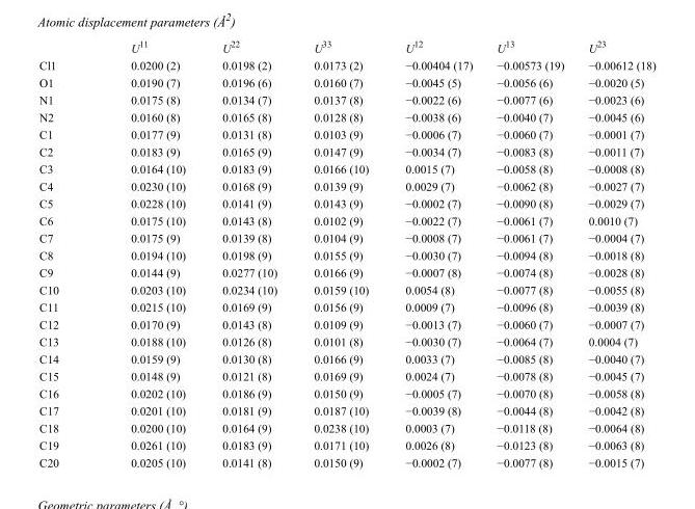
<table><thead><tr><td></td><td>U<sup>11</sup></td><td>U<sup>22</sup></td><td>U<sup>33</sup></td><td>U<sup>12</sup></td><td>U<sup>13</sup></td><td>U<sup>23</sup></td></tr></thead><tbody><tr><td>Cl1</td><td>0.0200 (2)</td><td>0.0198 (2)</td><td>0.0173 (2)</td><td>−0.00404 (17)</td><td>−0.00573 (19)</td><td>−0.00612 (18)</td></tr><tr><td>O1</td><td>0.0190 (7)</td><td>0.0196 (6)</td><td>0.0160 (7)</td><td>−0.0045 (5)</td><td>−0.0056 (6)</td><td>−0.0020 (5)</td></tr><tr><td>N1</td><td>0.0175 (8)</td><td>0.0134 (7)</td><td>0.0137 (8)</td><td>−0.0022 (6)</td><td>−0.0077 (6)</td><td>−0.0023 (6)</td></tr><tr><td>N2</td><td>0.0160 (8)</td><td>0.0165 (8)</td><td>0.0128 (8)</td><td>−0.0038 (6)</td><td>−0.0040 (7)</td><td>−0.0045 (6)</td></tr><tr><td>C1</td><td>0.0177 (9)</td><td>0.0131 (8)</td><td>0.0103 (9)</td><td>−0.0006 (7)</td><td>−0.0060 (7)</td><td>−0.0001 (7)</td></tr><tr><td>C2</td><td>0.0183 (9)</td><td>0.0165 (9)</td><td>0.0147 (9)</td><td>−0.0034 (7)</td><td>−0.0083 (8)</td><td>−0.0011 (7)</td></tr><tr><td>C3</td><td>0.0164 (10)</td><td>0.0183 (9)</td><td>0.0166 (10)</td><td>0.0015 (7)</td><td>−0.0058 (8)</td><td>−0.0008 (8)</td></tr><tr><td>C4</td><td>0.0230 (10)</td><td>0.0168 (9)</td><td>0.0139 (9)</td><td>0.0029 (7)</td><td>−0.0062 (8)</td><td>−0.0027 (7)</td></tr><tr><td>C5</td><td>0.0228 (10)</td><td>0.0141 (9)</td><td>0.0143 (9)</td><td>−0.0002 (7)</td><td>−0.0090 (8)</td><td>−0.0029 (7)</td></tr><tr><td>C6</td><td>0.0175 (10)</td><td>0.0143 (8)</td><td>0.0102 (9)</td><td>−0.0022 (7)</td><td>−0.0061 (7)</td><td>0.0010 (7)</td></tr><tr><td>C7</td><td>0.0175 (9)</td><td>0.0139 (8)</td><td>0.0104 (9)</td><td>−0.0008 (7)</td><td>−0.0061 (7)</td><td>−0.0004 (7)</td></tr><tr><td>C8</td><td>0.0194 (10)</td><td>0.0198 (9)</td><td>0.0155 (9)</td><td>−0.0030 (7)</td><td>−0.0094 (8)</td><td>−0.0018 (8)</td></tr><tr><td>C9</td><td>0.0144 (9)</td><td>0.0277 (10)</td><td>0.0166 (9)</td><td>−0.0007 (8)</td><td>−0.0074 (8)</td><td>−0.0028 (8)</td></tr><tr><td>C10</td><td>0.0203 (10)</td><td>0.0234 (10)</td><td>0.0159 (10)</td><td>0.0054 (8)</td><td>−0.0077 (8)</td><td>−0.0055 (8)</td></tr><tr><td>C11</td><td>0.0215 (10)</td><td>0.0169 (9)</td><td>0.0156 (9)</td><td>0.0009 (7)</td><td>−0.0096 (8)</td><td>−0.0039 (8)</td></tr><tr><td>C12</td><td>0.0170 (9)</td><td>0.0143 (8)</td><td>0.0109 (9)</td><td>−0.0013 (7)</td><td>−0.0060 (7)</td><td>−0.0007 (7)</td></tr><tr><td>C13</td><td>0.0188 (10)</td><td>0.0126 (8)</td><td>0.0101 (8)</td><td>−0.0030 (7)</td><td>−0.0064 (7)</td><td>0.0004 (7)</td></tr><tr><td>C14</td><td>0.0159 (9)</td><td>0.0130 (8)</td><td>0.0166 (9)</td><td>0.0033 (7)</td><td>−0.0085 (8)</td><td>−0.0040 (7)</td></tr><tr><td>C15</td><td>0.0148 (9)</td><td>0.0121 (8)</td><td>0.0169 (9)</td><td>0.0024 (7)</td><td>−0.0078 (8)</td><td>−0.0045 (7)</td></tr><tr><td>C16</td><td>0.0202 (10)</td><td>0.0186 (9)</td><td>0.0150 (9)</td><td>−0.0005 (7)</td><td>−0.0070 (8)</td><td>−0.0058 (8)</td></tr><tr><td>C17</td><td>0.0201 (10)</td><td>0.0181 (9)</td><td>0.0187 (10)</td><td>−0.0039 (8)</td><td>−0.0044 (8)</td><td>−0.0042 (8)</td></tr><tr><td>C18</td><td>0.0200 (10)</td><td>0.0164 (9)</td><td>0.0238 (10)</td><td>0.0003 (7)</td><td>−0.0118 (8)</td><td>−0.0064 (8)</td></tr><tr><td>C19</td><td>0.0261 (10)</td><td>0.0183 (9)</td><td>0.0171 (10)</td><td>0.0026 (8)</td><td>−0.0123 (8)</td><td>−0.0063 (8)</td></tr><tr><td>C20</td><td>0.0205 (10)</td><td>0.0141 (8)</td><td>0.0150 (9)</td><td>−0.0002 (7)</td><td>−0.0077 (8)</td><td>−0.0015 (7)</td></tr></tbody></table>